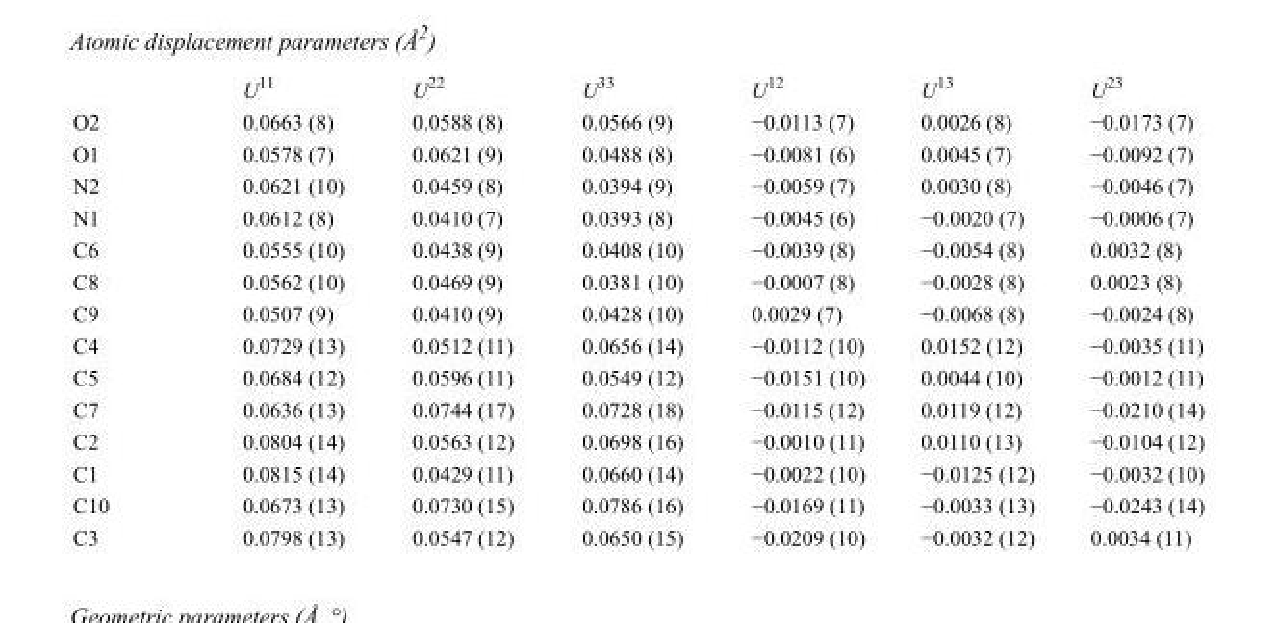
<table><thead><tr><td></td><td>U<sup>11</sup></td><td>U<sup>22</sup></td><td>U<sup>33</sup></td><td>U<sup>12</sup></td><td>U<sup>13</sup></td><td>U<sup>23</sup></td></tr></thead><tbody><tr><td>O2</td><td>0.0663 (8)</td><td>0.0588 (8)</td><td>0.0566 (9)</td><td>−0.0113 (7)</td><td>0.0026 (8)</td><td>−0.0173 (7)</td></tr><tr><td>O1</td><td>0.0578 (7)</td><td>0.0621 (9)</td><td>0.0488 (8)</td><td>−0.0081 (6)</td><td>0.0045 (7)</td><td>−0.0092 (7)</td></tr><tr><td>N2</td><td>0.0621 (10)</td><td>0.0459 (8)</td><td>0.0394 (9)</td><td>−0.0059 (7)</td><td>0.0030 (8)</td><td>−0.0046 (7)</td></tr><tr><td>N1</td><td>0.0612 (8)</td><td>0.0410 (7)</td><td>0.0393 (8)</td><td>−0.0045 (6)</td><td>−0.0020 (7)</td><td>−0.0006 (7)</td></tr><tr><td>C6</td><td>0.0555 (10)</td><td>0.0438 (9)</td><td>0.0408 (10)</td><td>−0.0039 (8)</td><td>−0.0054 (8)</td><td>0.0032 (8)</td></tr><tr><td>C8</td><td>0.0562 (10)</td><td>0.0469 (9)</td><td>0.0381 (10)</td><td>−0.0007 (8)</td><td>−0.0028 (8)</td><td>0.0023 (8)</td></tr><tr><td>C9</td><td>0.0507 (9)</td><td>0.0410 (9)</td><td>0.0428 (10)</td><td>0.0029 (7)</td><td>−0.0068 (8)</td><td>−0.0024 (8)</td></tr><tr><td>C4</td><td>0.0729 (13)</td><td>0.0512 (11)</td><td>0.0656 (14)</td><td>−0.0112 (10)</td><td>0.0152 (12)</td><td>−0.0035 (11)</td></tr><tr><td>C5</td><td>0.0684 (12)</td><td>0.0596 (11)</td><td>0.0549 (12)</td><td>−0.0151 (10)</td><td>0.0044 (10)</td><td>−0.0012 (11)</td></tr><tr><td>C7</td><td>0.0636 (13)</td><td>0.0744 (17)</td><td>0.0728 (18)</td><td>−0.0115 (12)</td><td>0.0119 (12)</td><td>−0.0210 (14)</td></tr><tr><td>C2</td><td>0.0804 (14)</td><td>0.0563 (12)</td><td>0.0698 (16)</td><td>−0.0010 (11)</td><td>0.0110 (13)</td><td>−0.0104 (12)</td></tr><tr><td>C1</td><td>0.0815 (14)</td><td>0.0429 (11)</td><td>0.0660 (14)</td><td>−0.0022 (10)</td><td>−0.0125 (12)</td><td>−0.0032 (10)</td></tr><tr><td>C10</td><td>0.0673 (13)</td><td>0.0730 (15)</td><td>0.0786 (16)</td><td>−0.0169 (11)</td><td>−0.0033 (13)</td><td>−0.0243 (14)</td></tr><tr><td>C3</td><td>0.0798 (13)</td><td>0.0547 (12)</td><td>0.0650 (15)</td><td>−0.0209 (10)</td><td>−0.0032 (12)</td><td>0.0034 (11)</td></tr></tbody></table>